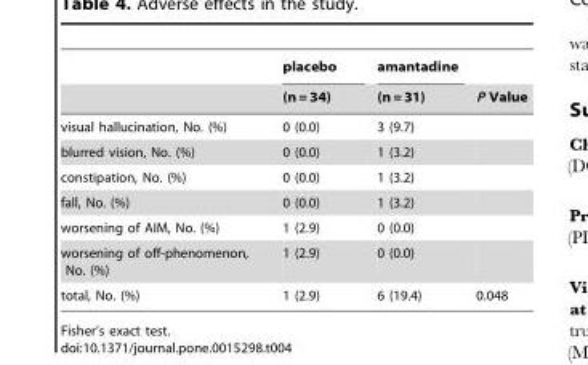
<table><thead><tr><td rowspan="2"></td><td rowspan="2">placebo (n = 34)</td><td rowspan="2">amantadine (n = 31)</td><td rowspan="2">P Value</td></tr><tr></tr></thead><tbody><tr><td>visual hallucination, No. (%)</td><td>0 (0.0)</td><td>3 (9.7)</td><td></td></tr><tr><td>blurred vision, No. (%)</td><td>0 (0.0)</td><td>1 (3.2)</td><td></td></tr><tr><td>constipation, No. (%)</td><td>0 (0.0)</td><td>1 (3.2)</td><td></td></tr><tr><td>fall, No. (%)</td><td>0 (0.0)</td><td>1 (3.2)</td><td></td></tr><tr><td>worsening of AIM, No. (%)</td><td>1 (2.9)</td><td>0 (0.0)</td><td></td></tr><tr><td>worsening of off-phenomenon, No. (%)</td><td>1 (2.9)</td><td>0 (0.0)</td><td></td></tr><tr><td>total, No. (%)</td><td>1 (2.9)</td><td>6 (19.4)</td><td>0.048</td></tr></tbody></table>